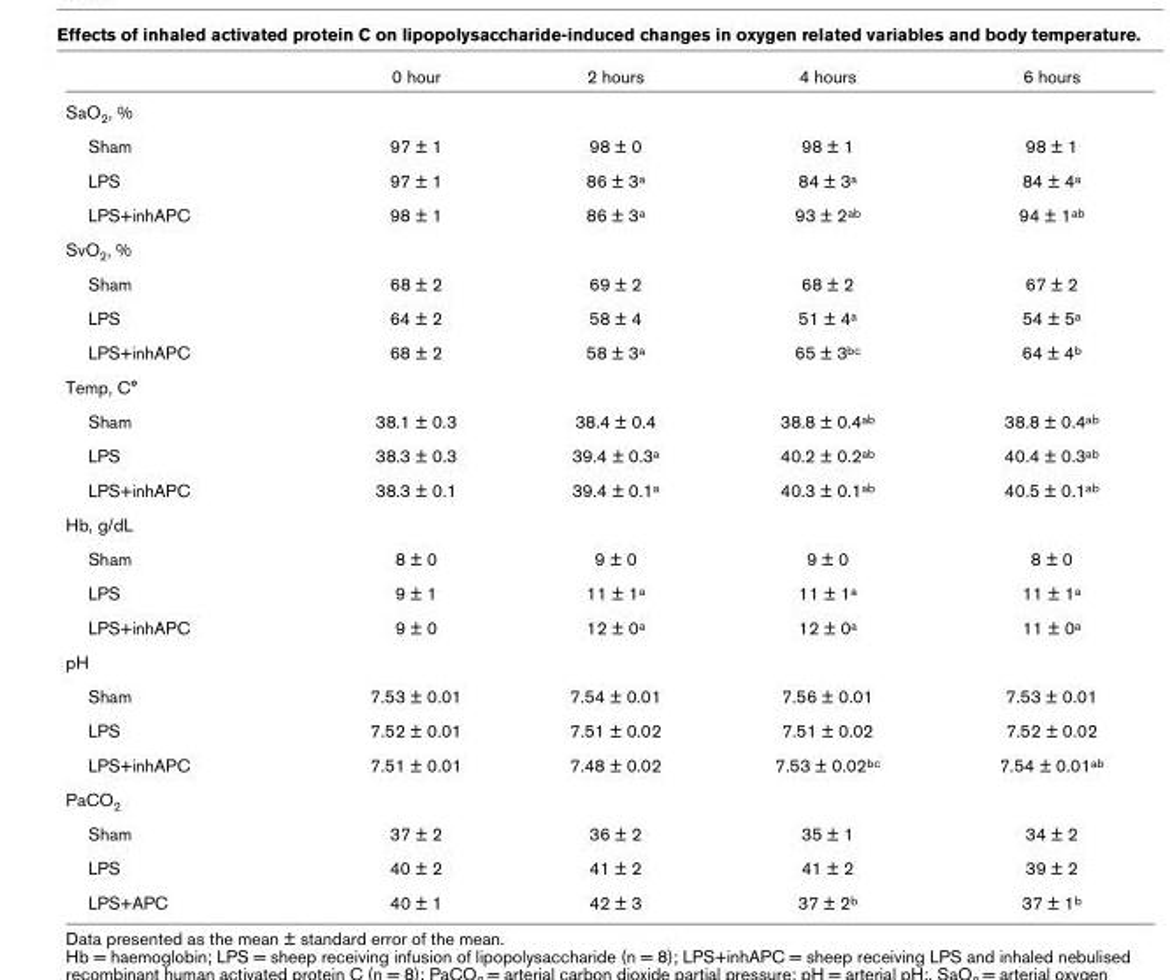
<table><thead><tr><td></td><td>0 hour</td><td>2 hours</td><td>4 hours</td><td>6 hours</td></tr></thead><tbody><tr><td colspan="5">SaO<sub>2</sub>, %</td></tr><tr><td>Sham</td><td>97 ± 1</td><td>98 ± 0</td><td>98 ± 1</td><td>98 ± 1</td></tr><tr><td>LPS</td><td>97 ± 1</td><td>86 ± 3<sup>a</sup></td><td>84 ± 3<sup>a</sup></td><td>84 ± 4<sup>a</sup></td></tr><tr><td>LPS+inhAPC</td><td>98 ± 1</td><td>86 ± 3<sup>a</sup></td><td>93 ± 2<sup>ab</sup></td><td>94 ± 1<sup>ab</sup></td></tr><tr><td colspan="5">SvO<sub>2</sub>, %</td></tr><tr><td>Sham</td><td>68 ± 2</td><td>69 ± 2</td><td>68 ± 2</td><td>67 ± 2</td></tr><tr><td>LPS</td><td>64 ± 2</td><td>58 ± 4</td><td>51 ± 4<sup>a</sup></td><td>54 ± 5<sup>a</sup></td></tr><tr><td>LPS+inhAPC</td><td>68 ± 2</td><td>58 ± 3<sup>a</sup></td><td>65 ± 3<sup>bc</sup></td><td>64 ± 4<sup>b</sup></td></tr><tr><td colspan="5">Temp, C°</td></tr><tr><td>Sham</td><td>38.1 ± 0.3</td><td>38.4 ± 0.4</td><td>38.8 ± 0.4<sup>ab</sup></td><td>38.8 ± 0.4<sup>ab</sup></td></tr><tr><td>LPS</td><td>38.3 ± 0.3</td><td>39.4 ± 0.3<sup>a</sup></td><td>40.2 ± 0.2<sup>ab</sup></td><td>40.4 ± 0.3<sup>ab</sup></td></tr><tr><td>LPS+inhAPC</td><td>38.3 ± 0.1</td><td>39.4 ± 0.1<sup>a</sup></td><td>40.3 ± 0.1<sup>ab</sup></td><td>40.5 ± 0.1<sup>ab</sup></td></tr><tr><td colspan="5">Hb, g/dL</td></tr><tr><td>Sham</td><td>8 ± 0</td><td>9 ± 0</td><td>9 ± 0</td><td>8 ± 0</td></tr><tr><td>LPS</td><td>9 ± 1</td><td>11 ± 1<sup>a</sup></td><td>11 ± 1<sup>a</sup></td><td>11 ± 1<sup>a</sup></td></tr><tr><td>LPS+inhAPC</td><td>9 ± 0</td><td>12 ± 0<sup>a</sup></td><td>12 ± 0<sup>a</sup></td><td>11 ± 0<sup>a</sup></td></tr><tr><td colspan="5">pH</td></tr><tr><td>Sham</td><td>7.53 ± 0.01</td><td>7.54 ± 0.01</td><td>7.56 ± 0.01</td><td>7.53 ± 0.01</td></tr><tr><td>LPS</td><td>7.52 ± 0.01</td><td>7.51 ± 0.02</td><td>7.51 ± 0.02</td><td>7.52 ± 0.02</td></tr><tr><td>LPS+inhAPC</td><td>7.51 ± 0.01</td><td>7.48 ± 0.02</td><td>7.53 ± 0.02<sup>bc</sup></td><td>7.54 ± 0.01<sup>ab</sup></td></tr><tr><td colspan="5">PaCO<sub>2</sub></td></tr><tr><td>Sham</td><td>37 ± 2</td><td>36 ± 2</td><td>35 ± 1</td><td>34 ± 2</td></tr><tr><td>LPS</td><td>40 ± 2</td><td>41 ± 2</td><td>41 ± 2</td><td>39 ± 2</td></tr><tr><td>LPS+APC</td><td>40 ± 1</td><td>42 ± 3</td><td>37 ± 2<sup>b</sup></td><td>37 ± 1<sup>b</sup></td></tr></tbody></table>